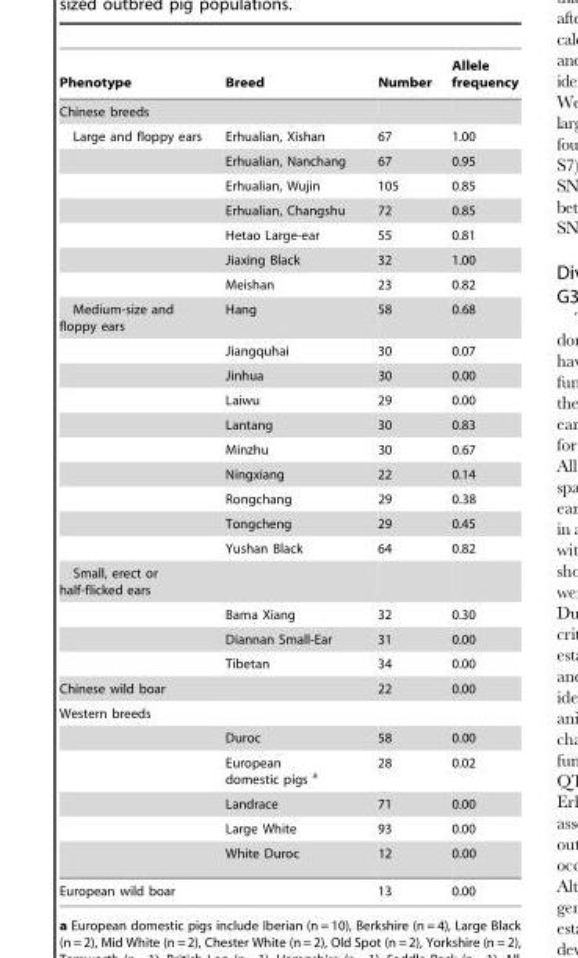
<table><thead><tr><td>Phenotype</td><td>Breed</td><td>Number</td><td>Allele frequency</td></tr></thead><tbody><tr><td colspan="4">Chinese breeds</td></tr><tr><td rowspan="7">Large and floppy ears</td><td>Erhualian, Xishan</td><td>67</td><td>1.00</td></tr><tr><td>Erhualian, Nanchang</td><td>67</td><td>0.95</td></tr><tr><td>Erhualian, Wujin</td><td>105</td><td>0.85</td></tr><tr><td>Erhualian, Changshu</td><td>72</td><td>0.85</td></tr><tr><td>Hetao Large-ear</td><td>55</td><td>0.81</td></tr><tr><td>Jiaxing Black</td><td>32</td><td>1.00</td></tr><tr><td>Meishan</td><td>23</td><td>0.82</td></tr><tr><td rowspan="10">Medium-size and floppy ears</td><td>Hang</td><td>58</td><td>0.68</td></tr><tr><td>Jiangquhai</td><td>30</td><td>0.07</td></tr><tr><td>Jinhua</td><td>30</td><td>0.00</td></tr><tr><td>Laiwu</td><td>29</td><td>0.00</td></tr><tr><td>Lantang</td><td>30</td><td>0.83</td></tr><tr><td>Minzhu</td><td>30</td><td>0.67</td></tr><tr><td>Ningxiang</td><td>22</td><td>0.14</td></tr><tr><td>Rongchang</td><td>29</td><td>0.38</td></tr><tr><td>Tongcheng</td><td>29</td><td>0.45</td></tr><tr><td>Yushan Black</td><td>64</td><td>0.82</td></tr><tr><td colspan="4">Small, erect or half-flicked ears</td></tr><tr><td></td><td>Bama Xiang</td><td>32</td><td>0.30</td></tr><tr><td></td><td>Diannan Small-Ear</td><td>31</td><td>0.00</td></tr><tr><td></td><td>Tibetan</td><td>34</td><td>0.00</td></tr><tr><td>Chinese wild boar</td><td></td><td>22</td><td>0.00</td></tr><tr><td colspan="4">Western breeds</td></tr><tr><td></td><td>Duroc</td><td>58</td><td>0.00</td></tr><tr><td></td><td>European domestic pigs a</td><td>28</td><td>0.02</td></tr><tr><td></td><td>Landrace</td><td>71</td><td>0.00</td></tr><tr><td></td><td>Large White</td><td>93</td><td>0.00</td></tr><tr><td></td><td>White Duroc</td><td>12</td><td>0.00</td></tr><tr><td>European wild boar</td><td></td><td>13</td><td>0.00</td></tr></tbody></table>